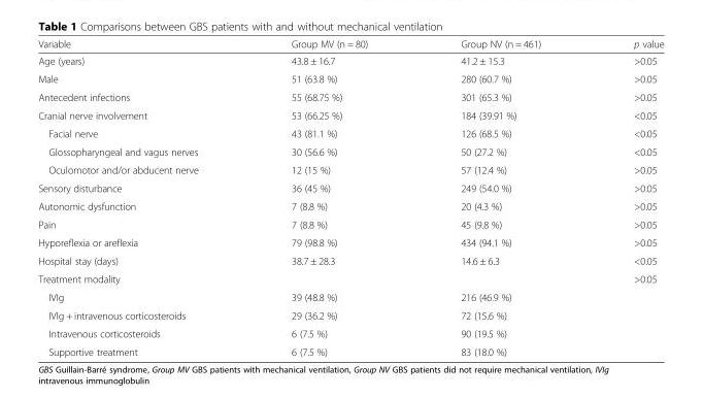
<table><thead><tr><td>Variable</td><td>Group MV (n = 80)</td><td>Group NV (n = 461)</td><td>p value</td></tr></thead><tbody><tr><td>Age (years)</td><td>43.8 ± 16.7</td><td>41.2 ± 15.3</td><td>&gt;0.05</td></tr><tr><td>Male</td><td>51 (63.8 %)</td><td>280 (60.7 %)</td><td>&gt;0.05</td></tr><tr><td>Antecedent infections</td><td>55 (68.75 %)</td><td>301 (65.3 %)</td><td>&gt;0.05</td></tr><tr><td>Cranial nerve involvement</td><td>53 (66.25 %)</td><td>184 (39.91 %)</td><td>&lt;0.05</td></tr><tr><td>Facial nerve</td><td>43 (81.1 %)</td><td>126 (68.5 %)</td><td>&lt;0.05</td></tr><tr><td>Glossopharyngeal and vagus nerves</td><td>30 (56.6 %)</td><td>50 (27.2 %)</td><td>&lt;0.05</td></tr><tr><td>Oculomotor and/or abducent nerve</td><td>12 (15 %)</td><td>57 (12.4 %)</td><td>&gt;0.05</td></tr><tr><td>Sensory disturbance</td><td>36 (45 %)</td><td>249 (54.0 %)</td><td>&gt;0.05</td></tr><tr><td>Autonomic dysfunction</td><td>7 (8.8 %)</td><td>20 (4.3 %)</td><td>&gt;0.05</td></tr><tr><td>Pain</td><td>7 (8.8 %)</td><td>45 (9.8 %)</td><td>&gt;0.05</td></tr><tr><td>Hyporeflexia or areflexia</td><td>79 (98.8 %)</td><td>434 (94.1 %)</td><td>&gt;0.05</td></tr><tr><td>Hospital stay (days)</td><td>38.7 ± 28.3</td><td>14.6 ± 6.3</td><td>&lt;0.05</td></tr><tr><td>Treatment modality</td><td></td><td></td><td>&gt;0.05</td></tr><tr><td>IVIg</td><td>39 (48.8 %)</td><td>216 (46.9 %)</td><td></td></tr><tr><td>IVIg + intravenous corticosteroids</td><td>29 (36.2 %)</td><td>72 (15.6 %)</td><td></td></tr><tr><td>Intravenous corticosteroids</td><td>6 (7.5 %)</td><td>90 (19.5 %)</td><td></td></tr><tr><td>Supportive treatment</td><td>6 (7.5 %)</td><td>83 (18.0 %)</td><td></td></tr></tbody></table>